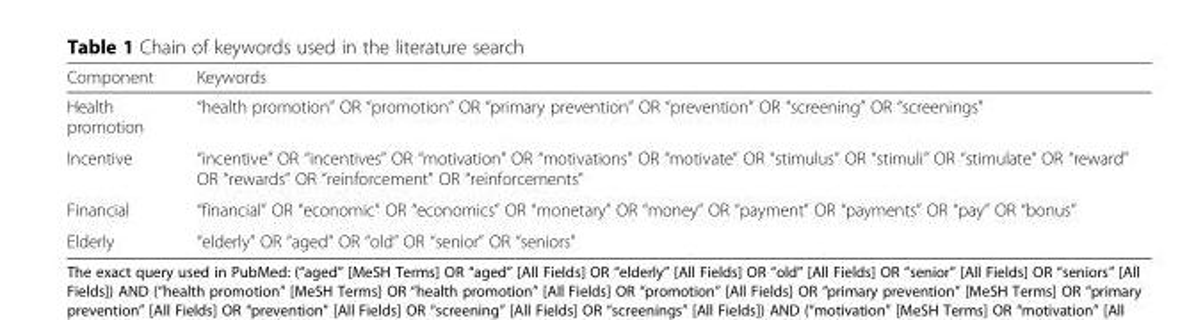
<table><thead><tr><td>Component</td><td>Keywords</td></tr></thead><tbody><tr><td>Health promotion</td><td>“health promotion” OR “promotion” OR “primary prevention” OR “prevention” OR “screening” OR “screenings”</td></tr><tr><td>Incentive</td><td>“incentive” OR “incentives” OR “motivation” OR “motivations” OR “motivate” OR “stimulus” OR “stimuli” OR “stimulate” OR “reward” OR “rewards” OR “reinforcement” OR “reinforcements”</td></tr><tr><td>Financial</td><td>“financial” OR “economic” OR “economics” OR “monetary” OR “money” OR “payment” OR “payments” OR “pay” OR “bonus”</td></tr><tr><td>Elderly</td><td>“elderly” OR “aged” OR “old” OR “senior” OR “seniors”</td></tr></tbody></table>